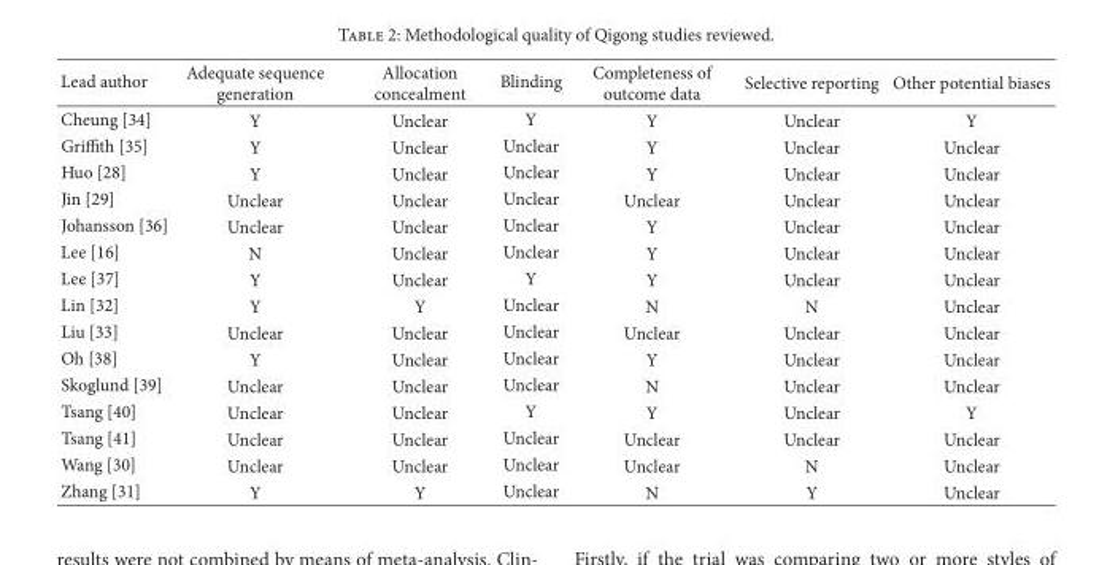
<table><thead><tr><td>Lead author</td><td>Adequate sequence generation</td><td>Allocation concealment</td><td>Blinding</td><td>Completeness of outcome data</td><td>Selective reporting</td><td>Other potential biases</td></tr></thead><tbody><tr><td>Cheung [34]</td><td>Y</td><td>Unclear</td><td>Y</td><td>Y</td><td>Unclear</td><td>Y</td></tr><tr><td>Griffith [35]</td><td>Y</td><td>Unclear</td><td>Unclear</td><td>Y</td><td>Unclear</td><td>Unclear</td></tr><tr><td>Huo [28]</td><td>Y</td><td>Unclear</td><td>Unclear</td><td>Y</td><td>Unclear</td><td>Unclear</td></tr><tr><td>Jin [29]</td><td>Unclear</td><td>Unclear</td><td>Unclear</td><td>Unclear</td><td>Unclear</td><td>Unclear</td></tr><tr><td>Johansson [36]</td><td>Unclear</td><td>Unclear</td><td>Unclear</td><td>Y</td><td>Unclear</td><td>Unclear</td></tr><tr><td>Lee [16]</td><td>N</td><td>Unclear</td><td>Unclear</td><td>Y</td><td>Unclear</td><td>Unclear</td></tr><tr><td>Lee [37]</td><td>Y</td><td>Unclear</td><td>Y</td><td>Y</td><td>Unclear</td><td>Unclear</td></tr><tr><td>Lin [32]</td><td>Y</td><td>Y</td><td>Unclear</td><td>N</td><td>N</td><td>Unclear</td></tr><tr><td>Liu [33]</td><td>Unclear</td><td>Unclear</td><td>Unclear</td><td>Unclear</td><td>Unclear</td><td>Unclear</td></tr><tr><td>Oh [38]</td><td>Y</td><td>Unclear</td><td>Unclear</td><td>Y</td><td>Unclear</td><td>Unclear</td></tr><tr><td>Skoglund [39]</td><td>Unclear</td><td>Unclear</td><td>Unclear</td><td>N</td><td>Unclear</td><td>Unclear</td></tr><tr><td>Tsang [40]</td><td>Unclear</td><td>Unclear</td><td>Y</td><td>Y</td><td>Unclear</td><td>Y</td></tr><tr><td>Tsang [41]</td><td>Unclear</td><td>Unclear</td><td>Unclear</td><td>Unclear</td><td>Unclear</td><td>Unclear</td></tr><tr><td>Wang [30]</td><td>Unclear</td><td>Unclear</td><td>Unclear</td><td>Unclear</td><td>N</td><td>Unclear</td></tr><tr><td>Zhang [31]</td><td>Y</td><td>Y</td><td>Unclear</td><td>N</td><td>Y</td><td>Unclear</td></tr></tbody></table>